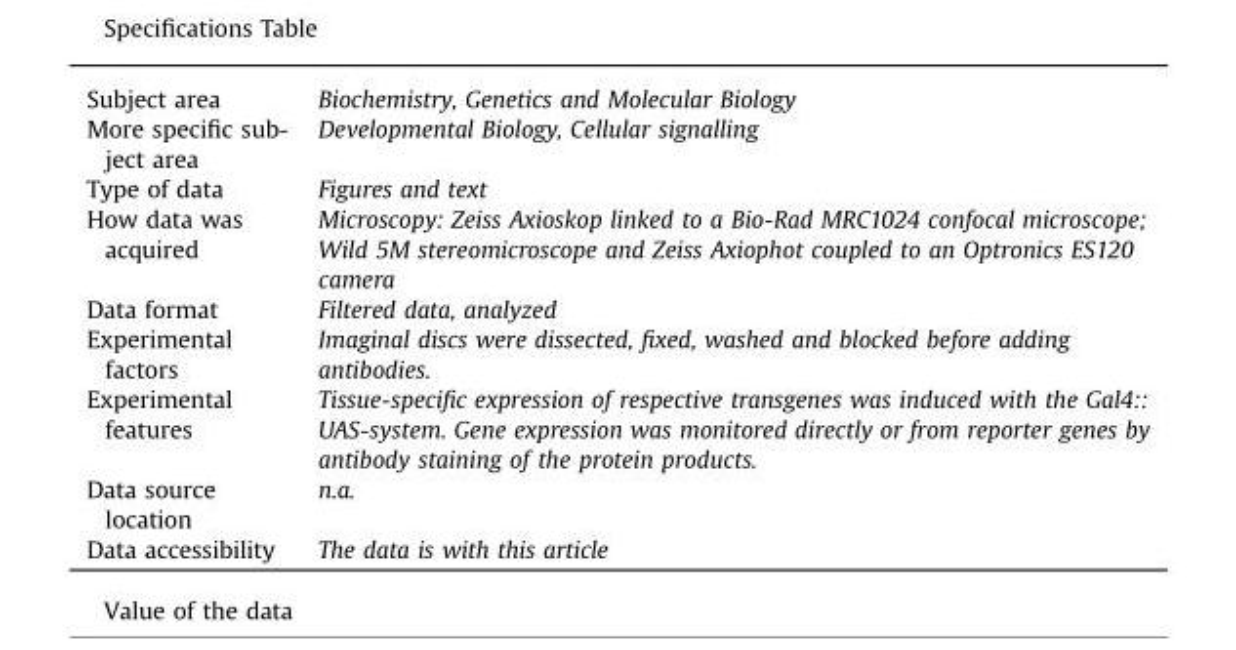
<table><thead><tr><td>Subject area</td><td>Biochemistry, Genetics and Molecular Biology</td></tr></thead><tbody><tr><td>More specific sub- ject area</td><td>Developmental Biology, Cellular signalling</td></tr><tr><td>Type of data</td><td>Figures and text</td></tr><tr><td>How data was acquired</td><td>Microscopy: Zeiss Axioskop linked to a Bio-Rad MRC1024 confocal microscope; Wild 5M stereomicroscope and Zeiss Axiophot coupled to an Optronics ES120 camera</td></tr><tr><td>Data format</td><td>Filtered data, analyzed</td></tr><tr><td>Experimental factors</td><td>Imaginal discs were dissected, fixed, washed and blocked before adding antibodies.</td></tr><tr><td>Experimental features</td><td>Tissue-specific expression of respective transgenes was induced with the Gal4:: UAS-system. Gene expression was monitored directly or from reporter genes by antibody staining of the protein products.</td></tr><tr><td>Data source location</td><td>n.a.</td></tr><tr><td>Data accessibility</td><td>The data is with this article</td></tr></tbody></table>